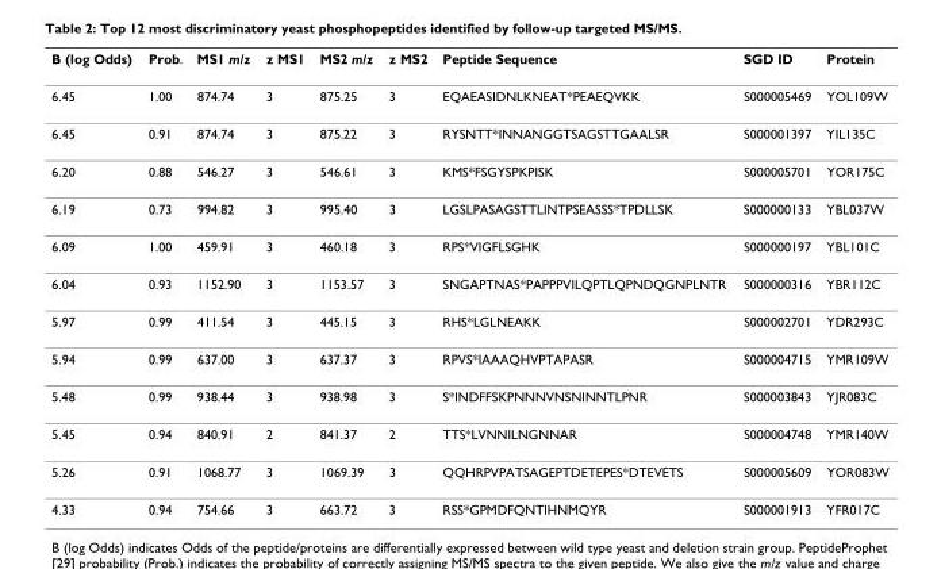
<table><thead><tr><td>B (log Odds)</td><td>Prob.</td><td>MS1 m/z</td><td>z MS1</td><td>MS2 m/z</td><td>z MS2</td><td>Peptide Sequence</td><td>SGD ID</td><td>Protein</td></tr></thead><tbody><tr><td>6.45</td><td>1.00</td><td>874.74</td><td>3</td><td>875.25</td><td>3</td><td>EQAEASIDNLKNEAT*PEAEQVKK</td><td>S000005469</td><td>YOL109W</td></tr><tr><td>6.45</td><td>0.91</td><td>874.74</td><td>3</td><td>875.22</td><td>3</td><td>RYSNTT*INNANGGTSAGSTTGAALSR</td><td>S000001397</td><td>YIL135C</td></tr><tr><td>6.20</td><td>0.88</td><td>546.27</td><td>3</td><td>546.61</td><td>3</td><td>KMS*FSGYSPKPISK</td><td>S000005701</td><td>YOR175C</td></tr><tr><td>6.19</td><td>0.73</td><td>994.82</td><td>3</td><td>995.40</td><td>3</td><td>LGSLPASAGSTTLINTPSEASSS*TPDLLSK</td><td>S000000133</td><td>YBL037W</td></tr><tr><td>6.09</td><td>1.00</td><td>459.91</td><td>3</td><td>460.18</td><td>3</td><td>RPS*VIGFLSGHK</td><td>S000000197</td><td>YBL101C</td></tr><tr><td>6.04</td><td>0.93</td><td>1152.90</td><td>3</td><td>1153.57</td><td>3</td><td>SNGAPTNAS*PAPPPVILQPTLQPNDQGNPLNTR</td><td>S000000316</td><td>YBR112C</td></tr><tr><td>5.97</td><td>0.99</td><td>411.54</td><td>3</td><td>445.15</td><td>3</td><td>RHS*LGLNEAKK</td><td>S000002701</td><td>YDR293C</td></tr><tr><td>5.94</td><td>0.99</td><td>637.00</td><td>3</td><td>637.37</td><td>3</td><td>RPVS*IAAAQHVPTAPASR</td><td>S000004715</td><td>YMR109W</td></tr><tr><td>5.48</td><td>0.99</td><td>938.44</td><td>3</td><td>938.98</td><td>3</td><td>S*INDFFSKPNNNVNSNINNTLPNR</td><td>S000003843</td><td>YJR083C</td></tr><tr><td>5.45</td><td>0.94</td><td>840.91</td><td>2</td><td>841.37</td><td>2</td><td>TTS*LVNNILNGNNAR</td><td>S000004748</td><td>YMR140W</td></tr><tr><td>5.26</td><td>0.91</td><td>1068.77</td><td>3</td><td>1069.39</td><td>3</td><td>QQHRPVPATSAGEPTDETEPES*DTEVETS</td><td>S000005609</td><td>YOR083W</td></tr><tr><td>4.33</td><td>0.94</td><td>754.66</td><td>3</td><td>663.72</td><td>3</td><td>RSS*GPMDFQNTIHNMQYR</td><td>S000001913</td><td>YFR017C</td></tr></tbody></table>